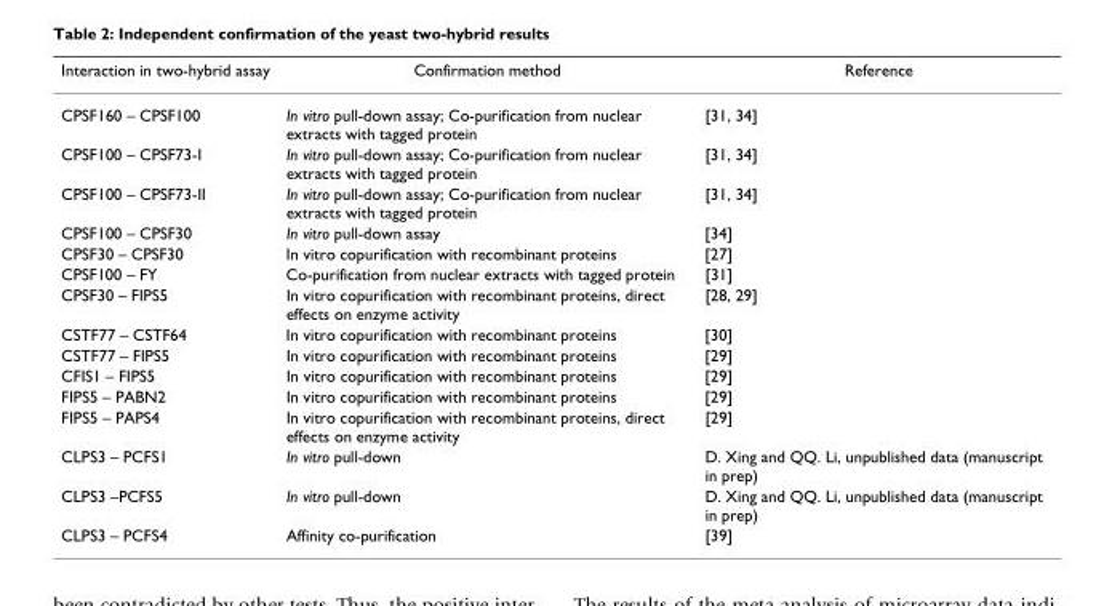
<table><thead><tr><td>Interaction in two-hybrid assay</td><td>Confirmation method</td><td>Reference</td></tr></thead><tbody><tr><td>CPSF160 – CPSF100</td><td>In vitro pull-down assay; Co-purification from nuclear extracts with tagged protein</td><td>[31, 34]</td></tr><tr><td>CPSF100 – CPSF73-I</td><td>In vitro pull-down assay; Co-purification from nuclear extracts with tagged protein</td><td>[31, 34]</td></tr><tr><td>CPSF100 – CPSF73-II</td><td>In vitro pull-down assay; Co-purification from nuclear extracts with tagged protein</td><td>[31, 34]</td></tr><tr><td>CPSF100 – CPSF30</td><td>In vitro pull-down assay</td><td>[34]</td></tr><tr><td>CPSF30 – CPSF30</td><td>In vitro copurification with recombinant proteins</td><td>[27]</td></tr><tr><td>CPSF100 – FY</td><td>Co-purification from nuclear extracts with tagged protein</td><td>[31]</td></tr><tr><td>CPSF30 – FIPS5</td><td>In vitro copurification with recombinant proteins, direct effects on enzyme activity</td><td>[28, 29]</td></tr><tr><td>CSTF77 – CSTF64</td><td>In vitro copurification with recombinant proteins</td><td>[30]</td></tr><tr><td>CSTF77 – FIPS5</td><td>In vitro copurification with recombinant proteins</td><td>[29]</td></tr><tr><td>CFIS1 – FIPS5</td><td>In vitro copurification with recombinant proteins</td><td>[29]</td></tr><tr><td>FIPS5 – PABN2</td><td>In vitro copurification with recombinant proteins</td><td>[29]</td></tr><tr><td>FIPS5 – PAPS4</td><td>In vitro copurification with recombinant proteins, direct effects on enzyme activity</td><td>[29]</td></tr><tr><td>CLPS3 – PCFS1</td><td>In vitro pull-down</td><td>D. Xing and QQ. Li, unpublished data (manuscript in prep)</td></tr><tr><td>CLPS3 –PCFS5</td><td>In vitro pull-down</td><td>D. Xing and QQ. Li, unpublished data (manuscript in prep)</td></tr><tr><td>CLPS3 – PCFS4</td><td>Affinity co-purification</td><td>[39]</td></tr></tbody></table>